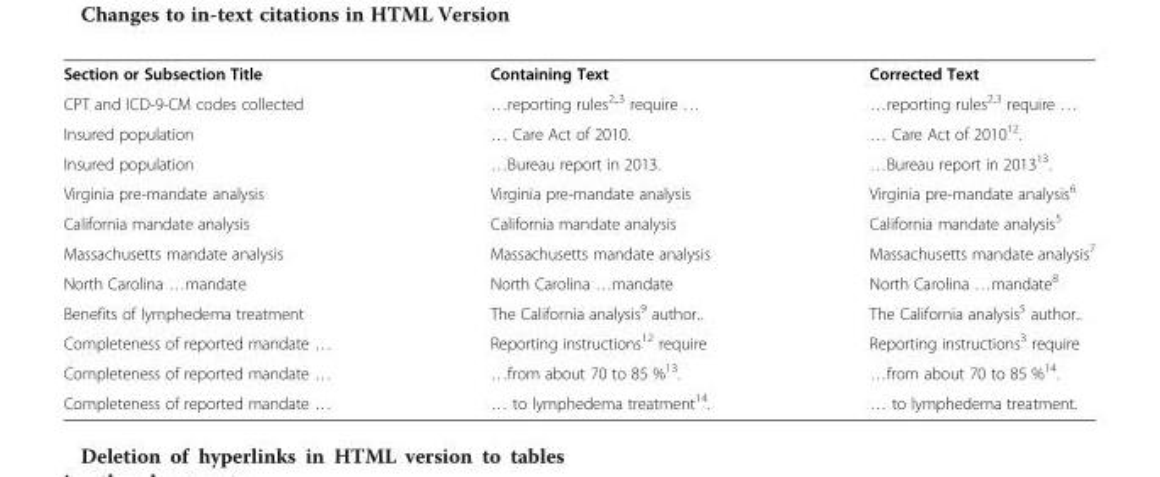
<table><tbody><tr><td>Section or Subsection Title</td><td>Containing Text</td><td>Corrected Text</td></tr><tr><td>CPT and ICD-9-CM codes collected</td><td>…reporting rules<sup>2,,3</sup> require …</td><td>…reporting rules<sup>2,3</sup> require …</td></tr><tr><td>Insured population</td><td>… Care Act of 2010.</td><td>… Care Act of 2010<sup>12</sup>.</td></tr><tr><td>Insured population</td><td>…Bureau report in 2013.</td><td>…Bureau report in 2013<sup>13</sup>.</td></tr><tr><td>Virginia pre-mandate analysis</td><td>Virginia pre-mandate analysis</td><td>Virginia pre-mandate analysis<sup>6</sup></td></tr><tr><td>California mandate analysis</td><td>California mandate analysis</td><td>California mandate analysis<sup>5</sup></td></tr><tr><td>Massachusetts mandate analysis</td><td>Massachusetts mandate analysis</td><td>Massachusetts mandate analysis<sup>7</sup></td></tr><tr><td>North Carolina …mandate</td><td>North Carolina …mandate</td><td>North Carolina …mandate<sup>8</sup></td></tr><tr><td>Benefits of lymphedema treatment</td><td>The California analysis<sup>9</sup> author..</td><td>The California analysis<sup>5</sup> author..</td></tr><tr><td>Completeness of reported mandate …</td><td>Reporting instructions<sup>12</sup> require</td><td>Reporting instructions<sup>3</sup> require</td></tr><tr><td>Completeness of reported mandate …</td><td>…from about 70 to 85 %<sup>13</sup>.</td><td>…from about 70 to 85 %<sup>14</sup>.</td></tr><tr><td>Completeness of reported mandate …</td><td>… to lymphedema treatment<sup>14</sup>.</td><td>… to lymphedema treatment.</td></tr></tbody></table>